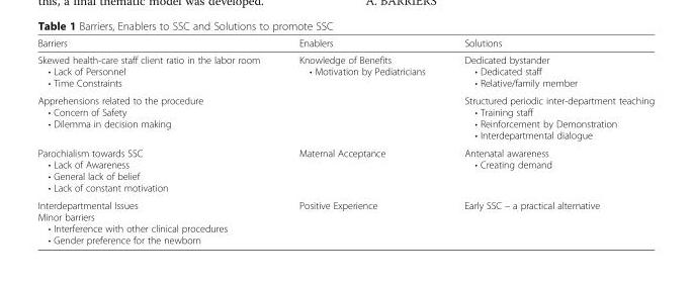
<table><thead><tr><td>Barriers</td><td>Enablers</td><td>Solutions</td></tr></thead><tbody><tr><td>Skewed health-care staff client ratio in the labor room • Lack of Personnel • Time Constraints</td><td rowspan="2">Knowledge of Benefits • Motivation by Pediatricians</td><td>Dedicated bystander • Dedicated staff • Relative/family member</td></tr><tr><td>Apprehensions related to the procedure • Concern of Safety • Dilemma in decision making</td><td>Structured periodic inter-department teaching • Training staff • Reinforcement by Demonstration • Interdepartmental dialogue</td></tr><tr><td>Parochialism towards SSC • Lack of Awareness • General lack of belief • Lack of constant motivation</td><td>Maternal Acceptance</td><td>Antenatal awareness • Creating demand</td></tr><tr><td>Interdepartmental Issues Minor barriers • Interference with other clinical procedures • Gender preference for the newborn</td><td>Positive Experience</td><td>Early SSC – a practical alternative</td></tr></tbody></table>